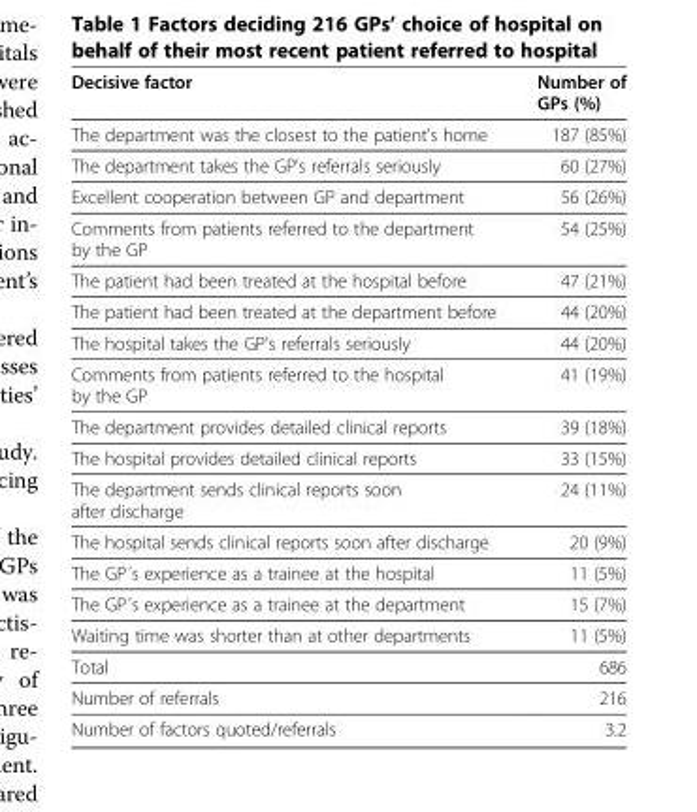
<table><thead><tr><td>Decisive factor</td><td>Number of GPs (%)</td></tr></thead><tbody><tr><td>The department was the closest to the patient’s home</td><td>187 (85%)</td></tr><tr><td>The department takes the GP’s referrals seriously</td><td>60 (27%)</td></tr><tr><td>Excellent cooperation between GP and department</td><td>56 (26%)</td></tr><tr><td>Comments from patients referred to the department by the GP</td><td>54 (25%)</td></tr><tr><td>The patient had been treated at the hospital before</td><td>47 (21%)</td></tr><tr><td>The patient had been treated at the department before</td><td>44 (20%)</td></tr><tr><td>The hospital takes the GP’s referrals seriously</td><td>44 (20%)</td></tr><tr><td>Comments from patients referred to the hospital by the GP</td><td>41 (19%)</td></tr><tr><td>The department provides detailed clinical reports</td><td>39 (18%)</td></tr><tr><td>The hospital provides detailed clinical reports</td><td>33 (15%)</td></tr><tr><td>The department sends clinical reports soon after discharge</td><td>24 (11%)</td></tr><tr><td>The hospital sends clinical reports soon after discharge</td><td>20 (9%)</td></tr><tr><td>The GP´s experience as a trainee at the hospital</td><td>11 (5%)</td></tr><tr><td>The GP´s experience as a trainee at the department</td><td>15 (7%)</td></tr><tr><td>Waiting time was shorter than at other departments</td><td>11 (5%)</td></tr><tr><td>Total</td><td>686</td></tr><tr><td>Number of referrals</td><td>216</td></tr><tr><td>Number of factors quoted/referrals</td><td>3.2</td></tr></tbody></table>